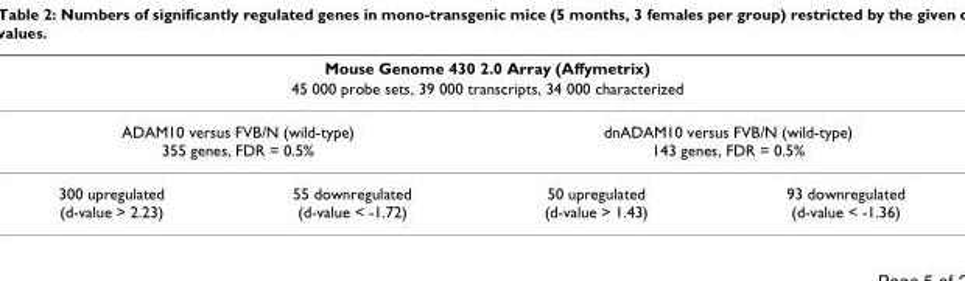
<table><thead><tr><td rowspan="2" colspan="4">Mouse Genome 430 2.0 Array (Affymetrix) 45 000 probe sets, 39 000 transcripts, 34 000 characterized</td></tr><tr></tr><tr><td colspan="2">ADAM10 versus FVB/N (wild-type) 355 genes, FDR = 0.5%</td><td colspan="2">dnADAM10 versus FVB/N (wild-type) 143 genes, FDR = 0.5%</td></tr><tr><td>300 upregulated (d-value &gt; 2.23)</td><td>55 downregulated (d-value &lt; -1.72)</td><td>50 upregulated (d-value &gt; 1.43)</td><td>93 downregulated (d-value &lt; -1.36)</td></tr></thead><tbody></tbody></table>